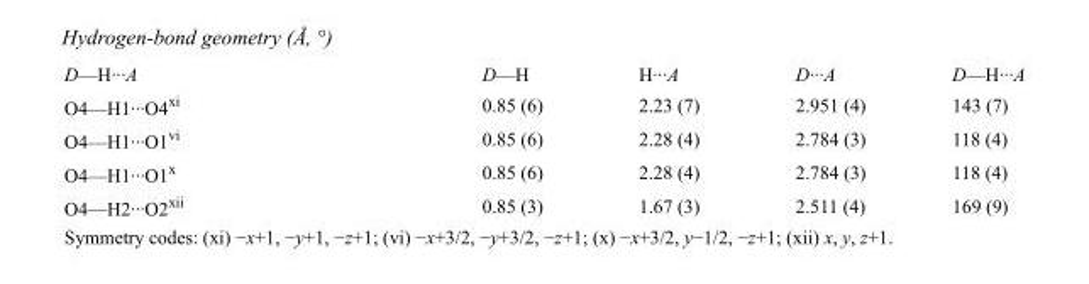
<table><tbody><tr><td>D—H···A</td><td>D—H</td><td>H···A</td><td>D···A</td><td>D—H···A</td></tr><tr><td>O4—H1···O4<sup>xi</sup></td><td>0.85 (6)</td><td>2.23 (7)</td><td>2.951 (4)</td><td>143 (7)</td></tr><tr><td>O4—H1···O1<sup>vi</sup></td><td>0.85 (6)</td><td>2.28 (4)</td><td>2.784 (3)</td><td>118 (4)</td></tr><tr><td>O4—H1···O1<sup>x</sup></td><td>0.85 (6)</td><td>2.28 (4)</td><td>2.784 (3)</td><td>118 (4)</td></tr><tr><td>O4—H2···O2<sup>xii</sup></td><td>0.85 (3)</td><td>1.67 (3)</td><td>2.511 (4)</td><td>169 (9)</td></tr></tbody></table>